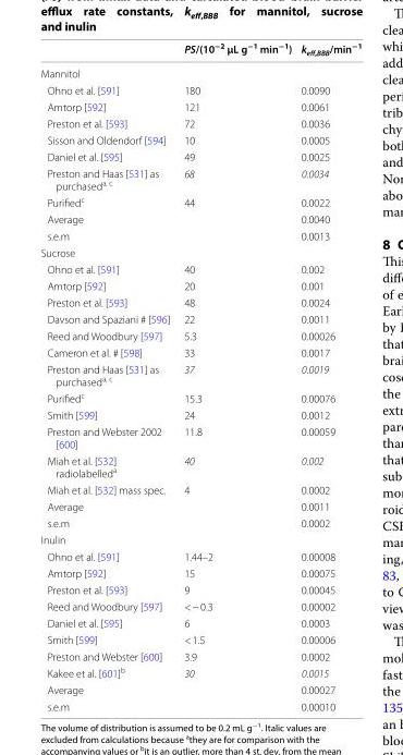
<table><thead><tr><td></td><td>PS/(10<sup>−2</sup> µL g<sup>−1</sup> min<sup>−1</sup>)</td><td>k<sub>eff,BBB</sub>/min<sup>−1</sup></td></tr></thead><tbody><tr><td colspan="3">Mannitol</td></tr><tr><td>Ohno et al. [591]</td><td>180</td><td>0.0090</td></tr><tr><td>Amtorp [592]</td><td>121</td><td>0.0061</td></tr><tr><td>Preston et al. [593]</td><td>72</td><td>0.0036</td></tr><tr><td>Sisson and Oldendorf [594]</td><td>10</td><td>0.0005</td></tr><tr><td>Daniel et al. [595]</td><td>49</td><td>0.0025</td></tr><tr><td>Preston and Haas [531] as purchased<sup>a, c</sup></td><td>68</td><td>0.0034</td></tr><tr><td>Purified<sup>c</sup></td><td>44</td><td>0.0022</td></tr><tr><td>Average</td><td></td><td>0.0040</td></tr><tr><td>s.e.m</td><td></td><td>0.0013</td></tr><tr><td colspan="3">Sucrose</td></tr><tr><td>Ohno et al. [591]</td><td>40</td><td>0.002</td></tr><tr><td>Amtorp [592]</td><td>20</td><td>0.001</td></tr><tr><td>Preston et al. [593]</td><td>48</td><td>0.0024</td></tr><tr><td>Davson and Spaziani # [596]</td><td>22</td><td>0.0011</td></tr><tr><td>Reed and Woodbury [597]</td><td>5.3</td><td>0.00026</td></tr><tr><td>Cameron et al. # [598]</td><td>33</td><td>0.0017</td></tr><tr><td>Preston and Haas [531] as purchased<sup>a, c</sup></td><td>37</td><td>0.0019</td></tr><tr><td>Purified<sup>c</sup></td><td>15.3</td><td>0.00076</td></tr><tr><td>Smith [599]</td><td>24</td><td>0.0012</td></tr><tr><td>Preston and Webster 2002 [600]</td><td>11.8</td><td>0.00059</td></tr><tr><td>Miah et al. [532] radiolabelled<sup>a</sup></td><td>40</td><td>0.002</td></tr><tr><td>Miah et al. [532] mass spec.</td><td>4</td><td>0.0002</td></tr><tr><td>Average</td><td></td><td>0.0011</td></tr><tr><td>s.e.m</td><td></td><td>0.0002</td></tr><tr><td colspan="3">Inulin</td></tr><tr><td>Ohno et al. [591]</td><td>1.44–2</td><td>0.00008</td></tr><tr><td>Amtorp [592]</td><td>15</td><td>0.00075</td></tr><tr><td>Preston et al. [593]</td><td>9</td><td>0.00045</td></tr><tr><td>Reed and Woodbury [597]</td><td>&lt; ~ 0.3</td><td>0.00002</td></tr><tr><td>Daniel et al. [595]</td><td>6</td><td>0.0003</td></tr><tr><td>Smith [599]</td><td>&lt; 1.5</td><td>0.00006</td></tr><tr><td>Preston and Webster [600]</td><td>3.9</td><td>0.0002</td></tr><tr><td>Kakee et al. [601]<sup>b</sup></td><td>30</td><td>0.0015</td></tr><tr><td>Average</td><td></td><td>0.00027</td></tr><tr><td>s.e.m</td><td></td><td>0.00010</td></tr></tbody></table>